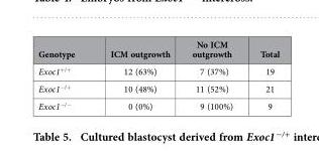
<table><thead><tr><td>Genotype</td><td>ICM outgrowth</td><td>No ICM outgrowth</td><td>Total</td></tr></thead><tbody><tr><td>Exoc1<sup>+/+</sup></td><td>12 (63%)</td><td>7 (37%)</td><td>19</td></tr><tr><td>Exoc1<sup>−/+</sup></td><td>10 (48%)</td><td>11 (52%)</td><td>21</td></tr><tr><td>Exoc1<sup>−/−</sup></td><td>0 (0%)</td><td>9 (100%)</td><td>9</td></tr></tbody></table>